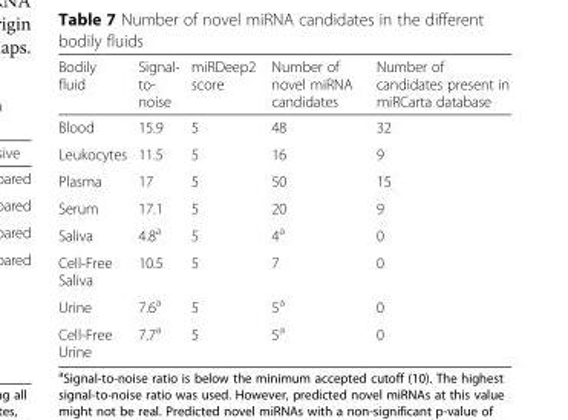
<table><thead><tr><td>Bodily fluid</td><td>Signal- to- noise</td><td>miRDeep2 score</td><td>Number of novel miRNA candidates</td><td>Number of candidates present in miRCarta database</td></tr></thead><tbody><tr><td>Blood</td><td>15.9</td><td>5</td><td>48</td><td>32</td></tr><tr><td>Leukocytes</td><td>11.5</td><td>5</td><td>16</td><td>9</td></tr><tr><td>Plasma</td><td>17</td><td>5</td><td>50</td><td>15</td></tr><tr><td>Serum</td><td>17.1</td><td>5</td><td>20</td><td>9</td></tr><tr><td>Saliva</td><td>4.8<sup>a</sup></td><td>5</td><td>4<sup>a</sup></td><td>0</td></tr><tr><td>Cell-Free Saliva</td><td>10.5</td><td>5</td><td>7</td><td>0</td></tr><tr><td>Urine</td><td>7.6<sup>a</sup></td><td>5</td><td>5<sup>a</sup></td><td>0</td></tr><tr><td>Cell-Free Urine</td><td>7.7<sup>a</sup></td><td>5</td><td>5<sup>a</sup></td><td>0</td></tr></tbody></table>